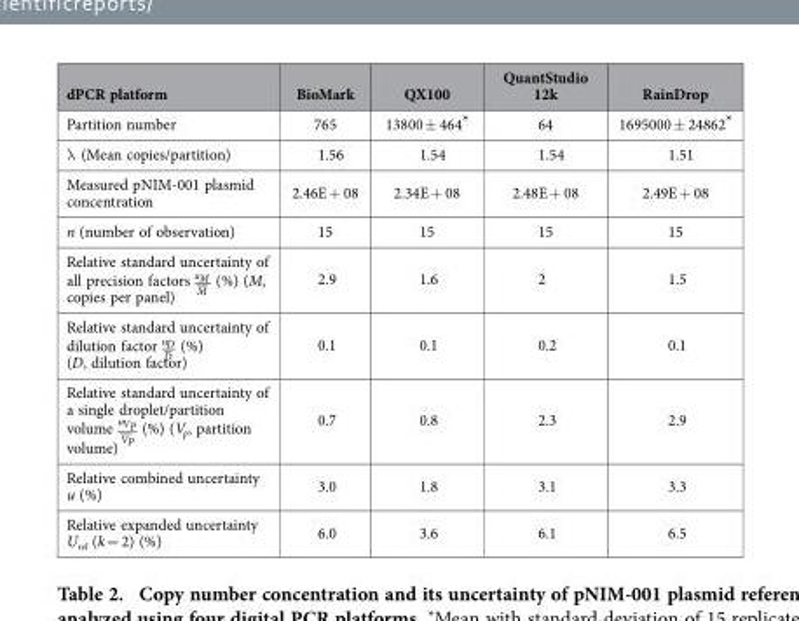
<table><thead><tr><td>dPCR platform</td><td>BioMark</td><td>QX100</td><td>QuantStudio 12k</td><td>RainDrop</td></tr></thead><tbody><tr><td>Partition number</td><td>765</td><td>13800 ± 464*</td><td>64</td><td>1695000 ± 24862*</td></tr><tr><td>λ (Mean copies/partition)</td><td>1.56</td><td>1.54</td><td>1.54</td><td>1.51</td></tr><tr><td>Measured pNIM-001 plasmid concentration</td><td>2.46E + 08</td><td>2.34E + 08</td><td>2.48E + 08</td><td>2.49E + 08</td></tr><tr><td>n (number of observation)</td><td>15</td><td>15</td><td>15</td><td>15</td></tr><tr><td>Relative standard uncertainty of all precision factors uM M (%) (M, copies per panel)</td><td>2.9</td><td>1.6</td><td>2</td><td>1.5</td></tr><tr><td>Relative standard uncertainty of dilution factor uD D (%) (D, dilution factor)</td><td>0.1</td><td>0.1</td><td>0.2</td><td>0.1</td></tr><tr><td>Relative standard uncertainty of a single droplet/partition volume uVP VP (%) (Vp, partition volume)</td><td>0.7</td><td>0.8</td><td>2.3</td><td>2.9</td></tr><tr><td>Relative combined uncertainty u (%)</td><td>3.0</td><td>1.8</td><td>3.1</td><td>3.3</td></tr><tr><td>Relative expanded uncertainty U<sub>rel</sub> (k = 2) (%)</td><td>6.0</td><td>3.6</td><td>6.1</td><td>6.5</td></tr></tbody></table>